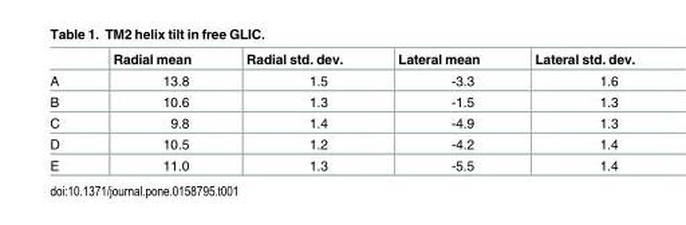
<table><thead><tr><td></td><td>Radial mean</td><td>Radial std. dev.</td><td>Lateral mean</td><td>Lateral std. dev.</td></tr></thead><tbody><tr><td>A</td><td>13.8</td><td>1.5</td><td>-3.3</td><td>1.6</td></tr><tr><td>B</td><td>10.6</td><td>1.3</td><td>-1.5</td><td>1.3</td></tr><tr><td>C</td><td>9.8</td><td>1.4</td><td>-4.9</td><td>1.3</td></tr><tr><td>D</td><td>10.5</td><td>1.2</td><td>-4.2</td><td>1.4</td></tr><tr><td>E</td><td>11.0</td><td>1.3</td><td>-5.5</td><td>1.4</td></tr></tbody></table>